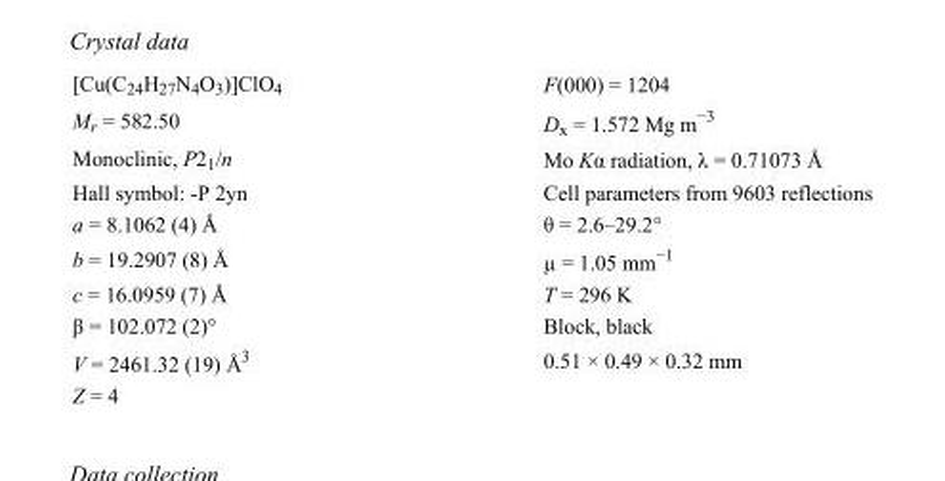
<table><tbody><tr><td>[Cu(C<sub>24</sub>H<sub>27</sub>N<sub>4</sub>O<sub>3</sub>)]ClO<sub>4</sub></td><td>F(000) = 1204</td></tr><tr><td>M<sub>r</sub> = 582.50</td><td>D<sub>x</sub> = 1.572 Mg m<sup>−3</sup></td></tr><tr><td>Monoclinic, P2<sub>1</sub>/n</td><td>Mo Kα radiation, λ = 0.71073 Å</td></tr><tr><td>Hall symbol: -P 2yn</td><td>Cell parameters from 9603 reflections</td></tr><tr><td>a = 8.1062 (4) Å</td><td>θ = 2.6–29.2°</td></tr><tr><td>b = 19.2907 (8) Å</td><td>µ = 1.05 mm<sup>−1</sup></td></tr><tr><td>c = 16.0959 (7) Å</td><td>T = 296 K</td></tr><tr><td>β = 102.072 (2)°</td><td>Block, black</td></tr><tr><td>V = 2461.32 (19) Å<sup>3</sup></td><td>0.51 × 0.49 × 0.32 mm</td></tr><tr><td>Z = 4</td><td></td></tr></tbody></table>